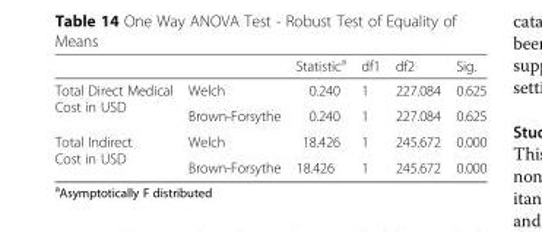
<table><thead><tr><td></td><td></td><td>Statistic<sup>a</sup></td><td>df1</td><td>df2</td><td>Sig.</td></tr></thead><tbody><tr><td rowspan="2">Total Direct Medical Cost in USD</td><td>Welch</td><td>0.240</td><td>1</td><td>227.084</td><td>0.625</td></tr><tr><td>Brown-Forsythe</td><td>0.240</td><td>1</td><td>227.084</td><td>0.625</td></tr><tr><td rowspan="2">Total Indirect Cost in USD</td><td>Welch</td><td>18.426</td><td>1</td><td>245.672</td><td>0.000</td></tr><tr><td>Brown-Forsythe</td><td>18.426</td><td>1</td><td>245.672</td><td>0.000</td></tr></tbody></table>